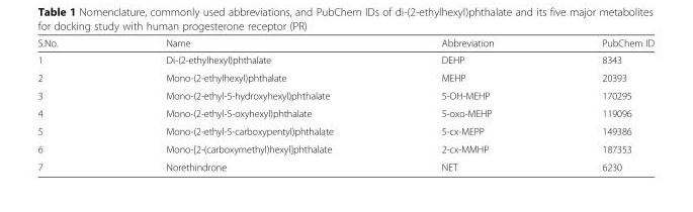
<table><thead><tr><td>S.No.</td><td>Name</td><td>Abbreviation</td><td>PubChem ID</td></tr></thead><tbody><tr><td>1</td><td>Di-(2-ethylhexyl)phthalate</td><td>DEHP</td><td>8343</td></tr><tr><td>2</td><td>Mono-(2-ethylhexyl)phthalate</td><td>MEHP</td><td>20393</td></tr><tr><td>3</td><td>Mono-(2-ethyl-5-hydroxyhexyl)phthalate</td><td>5-OH-MEHP</td><td>170295</td></tr><tr><td>4</td><td>Mono-(2-ethyl-5-oxyhexyl)phthalate</td><td>5-oxo-MEHP</td><td>119096</td></tr><tr><td>5</td><td>Mono-(2-ethyl-5-carboxypentyl)phthalate</td><td>5-cx-MEPP</td><td>149386</td></tr><tr><td>6</td><td>Mono-[2-(carboxymethyl)hexyl]phthalate</td><td>2-cx-MMHP</td><td>187353</td></tr><tr><td>7</td><td>Norethindrone</td><td>NET</td><td>6230</td></tr></tbody></table>